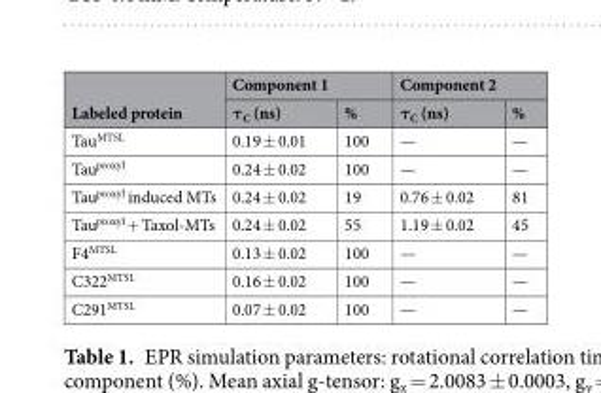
<table><thead><tr><td rowspan="2">Labeled protein</td><td colspan="2">Component 1</td><td colspan="2">Component 2</td></tr><tr><td>τ<sub>C</sub> (ns)</td><td>%</td><td>τ<sub>C</sub> (ns)</td><td>%</td></tr></thead><tbody><tr><td>Tau<sup>MTSL</sup></td><td>0.19 ± 0.01</td><td>100</td><td>—</td><td>—</td></tr><tr><td>Tau<sup>proxyl</sup></td><td>0.24 ± 0.02</td><td>100</td><td>—</td><td>—</td></tr><tr><td>Tau<sup>proxyl</sup> induced MTs</td><td>0.24 ± 0.02</td><td>19</td><td>0.76 ± 0.02</td><td>81</td></tr><tr><td>Tau<sup>proxyl</sup> + Taxol-MTs</td><td>0.24 ± 0.02</td><td>55</td><td>1.19 ± 0.02</td><td>45</td></tr><tr><td>F4<sup>MTSL</sup></td><td>0.13 ± 0.02</td><td>100</td><td>—</td><td>—</td></tr><tr><td>C322<sup>MTSL</sup></td><td>0.16 ± 0.02</td><td>100</td><td>—</td><td>—</td></tr><tr><td>C291<sup>MTSL</sup></td><td>0.07 ± 0.02</td><td>100</td><td>—</td><td>—</td></tr></tbody></table>